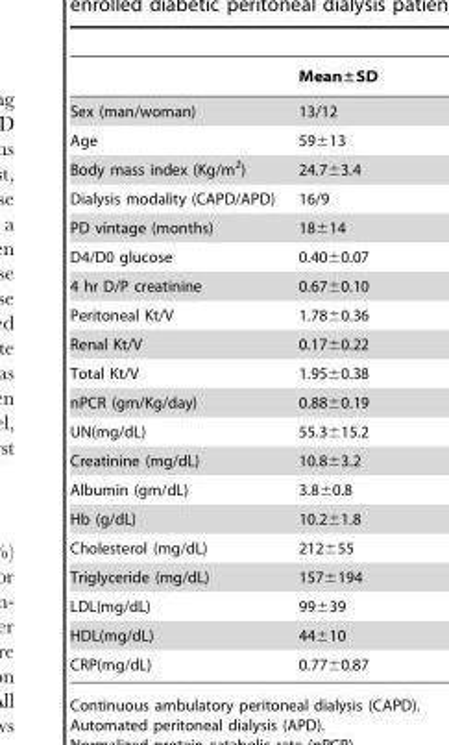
<table><thead><tr><td></td><td>Mean±SD</td></tr></thead><tbody><tr><td>Sex (man/woman)</td><td>13/12</td></tr><tr><td>Age</td><td>59±13</td></tr><tr><td>Body mass index (Kg/m<sup>2</sup>)</td><td>24.7±3.4</td></tr><tr><td>Dialysis modality (CAPD/APD)</td><td>16/9</td></tr><tr><td>PD vintage (months)</td><td>18±14</td></tr><tr><td>D4/D0 glucose</td><td>0.40±0.07</td></tr><tr><td>4 hr D/P creatinine</td><td>0.67±0.10</td></tr><tr><td>Peritoneal Kt/V</td><td>1.78±0.36</td></tr><tr><td>Renal Kt/V</td><td>0.17±0.22</td></tr><tr><td>Total Kt/V</td><td>1.95±0.38</td></tr><tr><td>nPCR (gm/Kg/day)</td><td>0.88±0.19</td></tr><tr><td>UN(mg/dL)</td><td>55.3±15.2</td></tr><tr><td>Creatinine (mg/dL)</td><td>10.8±3.2</td></tr><tr><td>Albumin (gm/dL)</td><td>3.8±0.8</td></tr><tr><td>Hb (g/dL)</td><td>10.2±1.8</td></tr><tr><td>Cholesterol (mg/dL)</td><td>212±55</td></tr><tr><td>Triglyceride (mg/dL)</td><td>157±194</td></tr><tr><td>LDL(mg/dL)</td><td>99±39</td></tr><tr><td>HDL(mg/dL)</td><td>44±10</td></tr><tr><td>CRP(mg/dL)</td><td>0.77±0.87</td></tr></tbody></table>